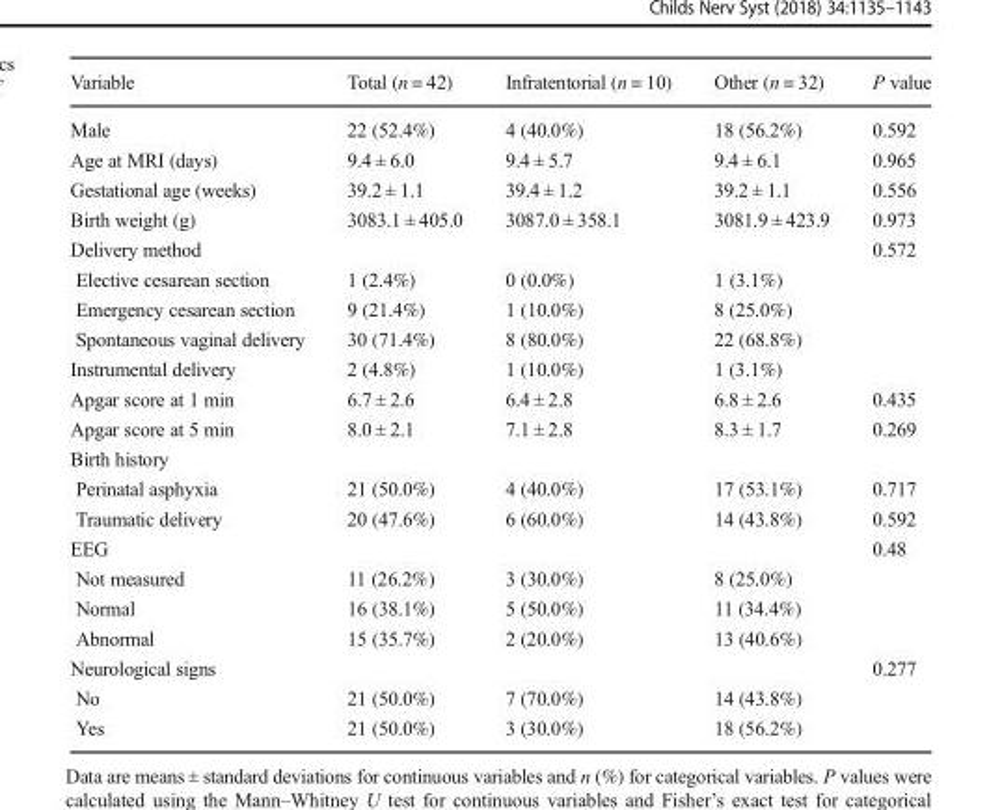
<table><thead><tr><td>Variable</td><td>Total (n = 42)</td><td>Infratentorial (n = 10)</td><td>Other (n = 32)</td><td>P value</td></tr></thead><tbody><tr><td>Male</td><td>22 (52.4%)</td><td>4 (40.0%)</td><td>18 (56.2%)</td><td>0.592</td></tr><tr><td>Age at MRI (days)</td><td>9.4 ± 6.0</td><td>9.4 ± 5.7</td><td>9.4 ± 6.1</td><td>0.965</td></tr><tr><td>Gestational age (weeks)</td><td>39.2 ± 1.1</td><td>39.4 ± 1.2</td><td>39.2 ± 1.1</td><td>0.556</td></tr><tr><td>Birth weight (g)</td><td>3083.1 ± 405.0</td><td>3087.0 ± 358.1</td><td>3081.9 ± 423.9</td><td>0.973</td></tr><tr><td colspan="4">Delivery method</td><td>0.572</td></tr><tr><td>Elective cesarean section</td><td>1 (2.4%)</td><td>0 (0.0%)</td><td>1 (3.1%)</td><td></td></tr><tr><td>Emergency cesarean section</td><td>9 (21.4%)</td><td>1 (10.0%)</td><td>8 (25.0%)</td><td></td></tr><tr><td>Spontaneous vaginal delivery</td><td>30 (71.4%)</td><td>8 (80.0%)</td><td>22 (68.8%)</td><td></td></tr><tr><td>Instrumental delivery</td><td>2 (4.8%)</td><td>1 (10.0%)</td><td>1 (3.1%)</td><td></td></tr><tr><td>Apgar score at 1 min</td><td>6.7 ± 2.6</td><td>6.4 ± 2.8</td><td>6.8 ± 2.6</td><td>0.435</td></tr><tr><td>Apgar score at 5 min</td><td>8.0 ± 2.1</td><td>7.1 ± 2.8</td><td>8.3 ± 1.7</td><td>0.269</td></tr><tr><td colspan="5">Birth history</td></tr><tr><td>Perinatal asphyxia</td><td>21 (50.0%)</td><td>4 (40.0%)</td><td>17 (53.1%)</td><td>0.717</td></tr><tr><td>Traumatic delivery</td><td>20 (47.6%)</td><td>6 (60.0%)</td><td>14 (43.8%)</td><td>0.592</td></tr><tr><td colspan="4">EEG</td><td>0.48</td></tr><tr><td>Not measured</td><td>11 (26.2%)</td><td>3 (30.0%)</td><td>8 (25.0%)</td><td></td></tr><tr><td>Normal</td><td>16 (38.1%)</td><td>5 (50.0%)</td><td>11 (34.4%)</td><td></td></tr><tr><td>Abnormal</td><td>15 (35.7%)</td><td>2 (20.0%)</td><td>13 (40.6%)</td><td></td></tr><tr><td colspan="4">Neurological signs</td><td>0.277</td></tr><tr><td>No</td><td>21 (50.0%)</td><td>7 (70.0%)</td><td>14 (43.8%)</td><td></td></tr><tr><td>Yes</td><td>21 (50.0%)</td><td>3 (30.0%)</td><td>18 (56.2%)</td><td></td></tr></tbody></table>